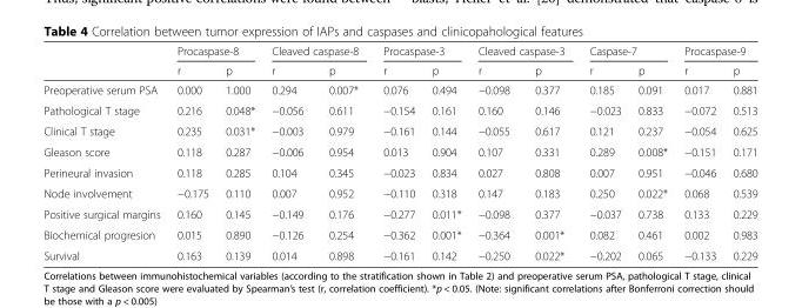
<table><thead><tr><td rowspan="2"></td><td colspan="2">Procaspase-8</td><td colspan="2">Cleaved caspase-8</td><td colspan="2">Procaspase-3</td><td colspan="2">Cleaved caspase-3</td><td colspan="2">Caspase-7</td><td colspan="2">Procaspase-9</td></tr><tr><td>r</td><td>p</td><td>r</td><td>p</td><td>r</td><td>p</td><td>r</td><td>p</td><td>r</td><td>p</td><td>r</td><td>p</td></tr></thead><tbody><tr><td>Preoperative serum PSA</td><td>0.000</td><td>1.000</td><td>0.294</td><td>0.007*</td><td>0.076</td><td>0.494</td><td>−0.098</td><td>0.377</td><td>0.185</td><td>0.091</td><td>0.017</td><td>0.881</td></tr><tr><td>Pathological T stage</td><td>0.216</td><td>0.048*</td><td>−0.056</td><td>0.611</td><td>−0.154</td><td>0.161</td><td>0.160</td><td>0.146</td><td>−0.023</td><td>0.833</td><td>−0.072</td><td>0.513</td></tr><tr><td>Clinical T stage</td><td>0.235</td><td>0.031*</td><td>−0.003</td><td>0.979</td><td>−0.161</td><td>0.144</td><td>−0.055</td><td>0.617</td><td>0.121</td><td>0.237</td><td>−0.054</td><td>0.625</td></tr><tr><td>Gleason score</td><td>0.118</td><td>0.287</td><td>−0.006</td><td>0.954</td><td>0.013</td><td>0.904</td><td>0.107</td><td>0.331</td><td>0.289</td><td>0.008*</td><td>−0.151</td><td>0.171</td></tr><tr><td>Perineural invasion</td><td>0.118</td><td>0.285</td><td>0.104</td><td>0.345</td><td>−0.023</td><td>0.834</td><td>0.027</td><td>0.808</td><td>0.007</td><td>0.951</td><td>−0.046</td><td>0.680</td></tr><tr><td>Node involvement</td><td>−0.175</td><td>0.110</td><td>0.007</td><td>0.952</td><td>−0.110</td><td>0.318</td><td>0.147</td><td>0.183</td><td>0.250</td><td>0.022*</td><td>0.068</td><td>0.539</td></tr><tr><td>Positive surgical margins</td><td>0.160</td><td>0.145</td><td>−0.149</td><td>0.176</td><td>−0.277</td><td>0.011*</td><td>−0.098</td><td>0.377</td><td>−0.037</td><td>0.738</td><td>0.133</td><td>0.229</td></tr><tr><td>Biochemical progresion</td><td>0.015</td><td>0.890</td><td>−0.126</td><td>0.254</td><td>−0.362</td><td>0.001*</td><td>−0.364</td><td>0.001*</td><td>0.082</td><td>0.461</td><td>0.002</td><td>0.983</td></tr><tr><td>Survival</td><td>0.163</td><td>0.139</td><td>0.014</td><td>0.898</td><td>−0.161</td><td>0.142</td><td>−0.250</td><td>0.022*</td><td>−0.202</td><td>0.065</td><td>−0.133</td><td>0.229</td></tr></tbody></table>